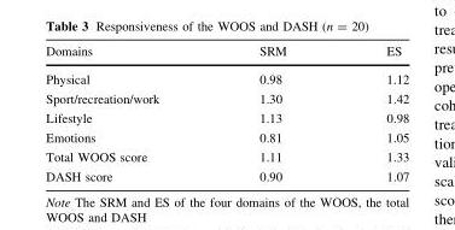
<table><thead><tr><td>Domains</td><td>SRM</td><td>ES</td></tr></thead><tbody><tr><td>Physical</td><td>0.98</td><td>1.12</td></tr><tr><td>Sport/recreation/work</td><td>1.30</td><td>1.42</td></tr><tr><td>Lifestyle</td><td>1.13</td><td>0.98</td></tr><tr><td>Emotions</td><td>0.81</td><td>1.05</td></tr><tr><td>Total WOOS score</td><td>1.11</td><td>1.33</td></tr><tr><td>DASH score</td><td>0.90</td><td>1.07</td></tr></tbody></table>